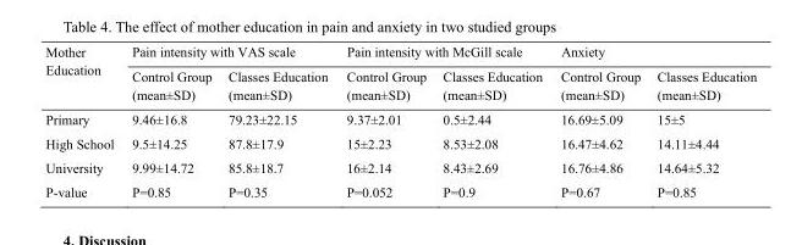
<table><thead><tr><td rowspan="2">Mother Education</td><td colspan="2">Pain intensity with VAS scale</td><td colspan="2">Pain intensity with McGill scale</td><td colspan="2">Anxiety</td></tr><tr><td>Control Group (mean±SD)</td><td>Classes Education (mean±SD)</td><td>Control Group (mean±SD)</td><td>Classes Education (mean±SD)</td><td>Control Group (mean±SD)</td><td>Classes Education (mean±SD)</td></tr></thead><tbody><tr><td>Primary</td><td>9.46±16.8</td><td>79.23±22.15</td><td>9.37±2.01</td><td>0.5±2.44</td><td>16.69±5.09</td><td>15±5</td></tr><tr><td>High School</td><td>9.5±14.25</td><td>87.8±17.9</td><td>15±2.23</td><td>8.53±2.08</td><td>16.47±4.62</td><td>14.11±4.44</td></tr><tr><td>University</td><td>9.99±14.72</td><td>85.8±18.7</td><td>16±2.14</td><td>8.43±2.69</td><td>16.76±4.86</td><td>14.64±5.32</td></tr><tr><td>P-value</td><td>P=0.85</td><td>P=0.35</td><td>P=0.052</td><td>P=0.9</td><td>P=0.67</td><td>P=0.85</td></tr></tbody></table>